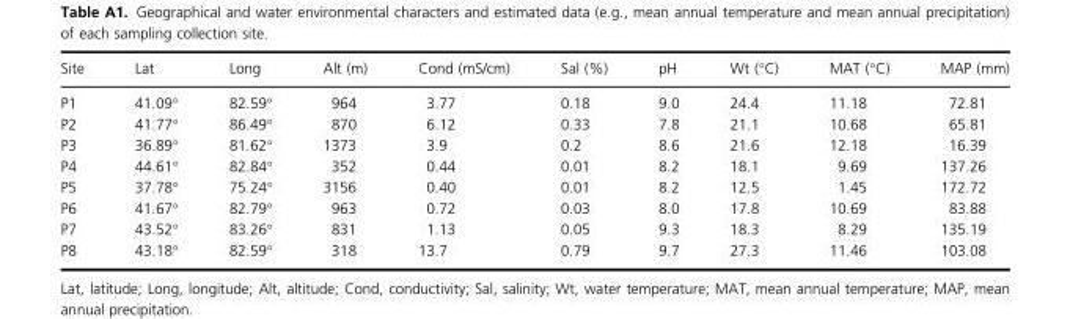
<table><thead><tr><td>Site</td><td>Lat</td><td>Long</td><td>Alt (m)</td><td>Cond (mS/cm)</td><td>Sal (%)</td><td>pH</td><td>Wt (°C)</td><td>MAT (°C)</td><td>MAP (mm)</td></tr></thead><tbody><tr><td>P1</td><td>41.09°</td><td>82.59°</td><td>964</td><td>3.77</td><td>0.18</td><td>9.0</td><td>24.4</td><td>11.18</td><td>72.81</td></tr><tr><td>P2</td><td>41.77°</td><td>86.49°</td><td>870</td><td>6.12</td><td>0.33</td><td>7.8</td><td>21.1</td><td>10.68</td><td>65.81</td></tr><tr><td>P3</td><td>36.89°</td><td>81.62°</td><td>1373</td><td>3.9</td><td>0.2</td><td>8.6</td><td>21.6</td><td>12.18</td><td>16.39</td></tr><tr><td>P4</td><td>44.61°</td><td>82.84°</td><td>352</td><td>0.44</td><td>0.01</td><td>8.2</td><td>18.1</td><td>9.69</td><td>137.26</td></tr><tr><td>P5</td><td>37.78°</td><td>75.24°</td><td>3156</td><td>0.40</td><td>0.01</td><td>8.2</td><td>12.5</td><td>1.45</td><td>172.72</td></tr><tr><td>P6</td><td>41.67°</td><td>82.79°</td><td>963</td><td>0.72</td><td>0.03</td><td>8.0</td><td>17.8</td><td>10.69</td><td>83.88</td></tr><tr><td>P7</td><td>43.52°</td><td>83.26°</td><td>831</td><td>1.13</td><td>0.05</td><td>9.3</td><td>18.3</td><td>8.29</td><td>135.19</td></tr><tr><td>P8</td><td>43.18°</td><td>82.59°</td><td>318</td><td>13.7</td><td>0.79</td><td>9.7</td><td>27.3</td><td>11.46</td><td>103.08</td></tr></tbody></table>